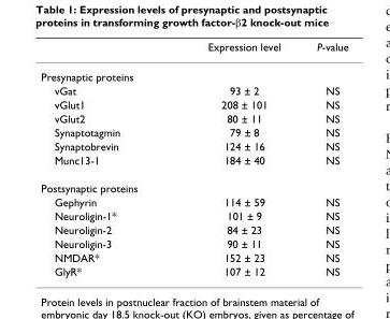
<table><thead><tr><td></td><td>Expression level</td><td>P-value</td></tr></thead><tbody><tr><td colspan="3">Presynaptic proteins</td></tr><tr><td>vGat</td><td>93 ± 2</td><td>NS</td></tr><tr><td>vGlut1</td><td>208 ± 101</td><td>NS</td></tr><tr><td>vGlut2</td><td>80 ± 11</td><td>NS</td></tr><tr><td>Synaptotagmin</td><td>79 ± 8</td><td>NS</td></tr><tr><td>Synaptobrevin</td><td>124 ± 16</td><td>NS</td></tr><tr><td>Munc13-1</td><td>184 ± 40</td><td>NS</td></tr><tr><td colspan="3">Postsynaptic proteins</td></tr><tr><td>Gephyrin</td><td>114 ± 59</td><td>NS</td></tr><tr><td>Neuroligin-1*</td><td>101 ± 9</td><td>NS</td></tr><tr><td>Neuroligin-2</td><td>84 ± 23</td><td>NS</td></tr><tr><td>Neuroligin-3</td><td>90 ± 11</td><td>NS</td></tr><tr><td>NMDAR*</td><td>152 ± 23</td><td>NS</td></tr><tr><td>GlyR*</td><td>107 ± 12</td><td>NS</td></tr></tbody></table>